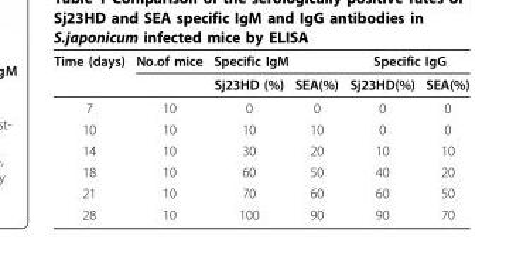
<table><thead><tr><td rowspan="2">Time (days)</td><td rowspan="2">No.of mice</td><td colspan="2">Specific IgM</td><td colspan="2">Specific IgG</td></tr><tr><td>Sj23HD (%)</td><td>SEA(%)</td><td>Sj23HD(%)</td><td>SEA(%)</td></tr></thead><tbody><tr><td>7</td><td>10</td><td>0</td><td>0</td><td>0</td><td>0</td></tr><tr><td>10</td><td>10</td><td>10</td><td>10</td><td>0</td><td>0</td></tr><tr><td>14</td><td>10</td><td>30</td><td>20</td><td>10</td><td>10</td></tr><tr><td>18</td><td>10</td><td>60</td><td>50</td><td>40</td><td>20</td></tr><tr><td>21</td><td>10</td><td>70</td><td>60</td><td>60</td><td>50</td></tr><tr><td>28</td><td>10</td><td>100</td><td>90</td><td>90</td><td>70</td></tr></tbody></table>